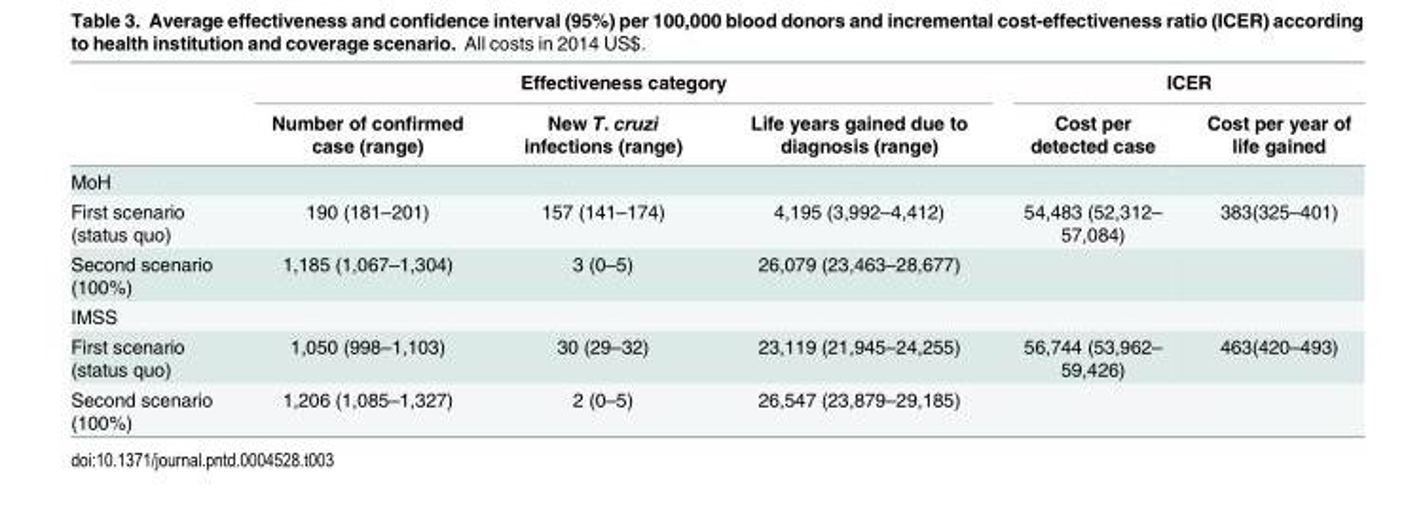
<table><thead><tr><td rowspan="2"></td><td colspan="3">Effectiveness category</td><td colspan="2">ICER</td></tr><tr><td>Number of confirmed case (range)</td><td>New T. cruzi infections (range)</td><td>Life years gained due to diagnosis (range)</td><td>Cost per detected case</td><td>Cost per year of life gained</td></tr></thead><tbody><tr><td colspan="6">MoH</td></tr><tr><td>First scenario (status quo)</td><td>190 (181–201)</td><td>157 (141–174)</td><td>4,195 (3,992–4,412)</td><td>54,483 (52,312– 57,084)</td><td>383(325–401)</td></tr><tr><td>Second scenario (100%)</td><td>1,185 (1,067–1,304)</td><td>3 (0–5)</td><td>26,079 (23,463–28,677)</td><td></td><td></td></tr><tr><td colspan="6">IMSS</td></tr><tr><td>First scenario (status quo)</td><td>1,050 (998–1,103)</td><td>30 (29–32)</td><td>23,119 (21,945–24,255)</td><td>56,744 (53,962– 59,426)</td><td>463(420–493)</td></tr><tr><td>Second scenario (100%)</td><td>1,206 (1,085–1,327)</td><td>2 (0–5)</td><td>26,547 (23,879–29,185)</td><td></td><td></td></tr></tbody></table>